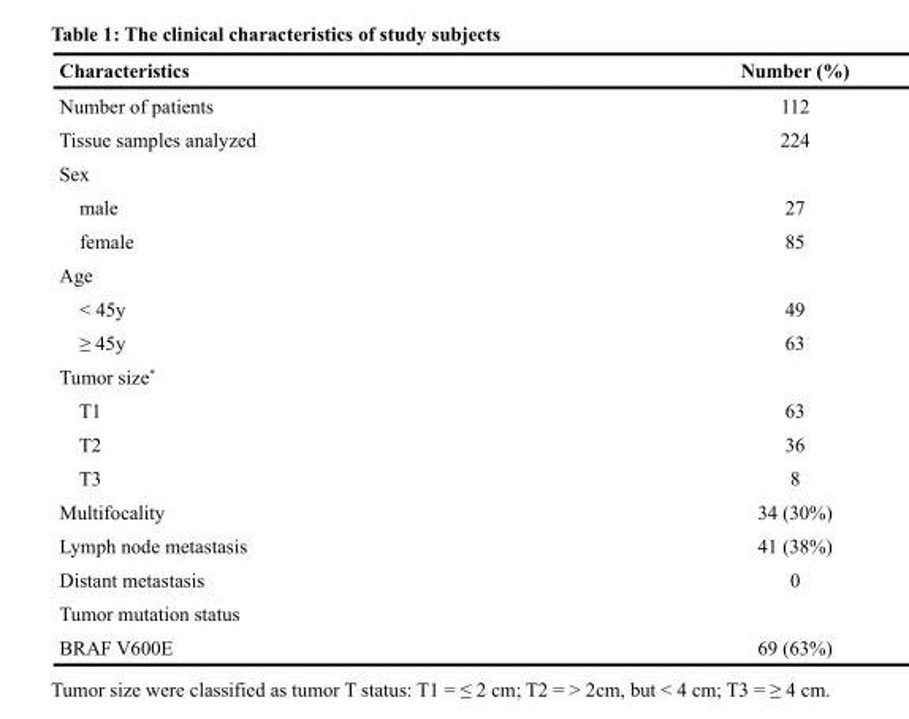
<table><thead><tr><td>Characteristics</td><td>Number (%)</td></tr></thead><tbody><tr><td>Number of patients</td><td>112</td></tr><tr><td>Tissue samples analyzed</td><td>224</td></tr><tr><td colspan="2">Sex</td></tr><tr><td>male</td><td>27</td></tr><tr><td>female</td><td>85</td></tr><tr><td colspan="2">Age</td></tr><tr><td>&lt; 45y</td><td>49</td></tr><tr><td>≥ 45y</td><td>63</td></tr><tr><td colspan="2">Tumor size*</td></tr><tr><td>T1</td><td>63</td></tr><tr><td>T2</td><td>36</td></tr><tr><td>T3</td><td>8</td></tr><tr><td>Multifocality</td><td>34 (30%)</td></tr><tr><td>Lymph node metastasis</td><td>41 (38%)</td></tr><tr><td>Distant metastasis</td><td>0</td></tr><tr><td colspan="2">Tumor mutation status</td></tr><tr><td>BRAF V600E</td><td>69 (63%)</td></tr></tbody></table>